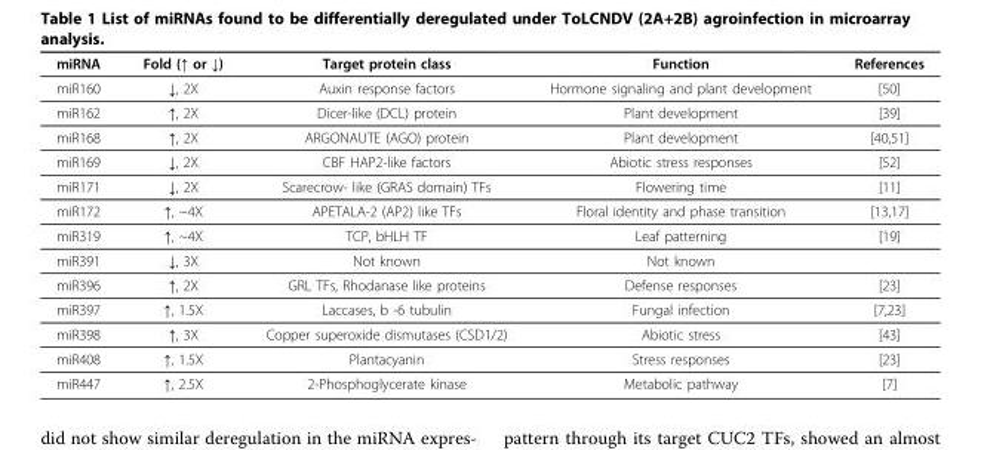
<table><thead><tr><td>miRNA</td><td>Fold (↑ or ↓)</td><td>Target protein class</td><td>Function</td><td>References</td></tr></thead><tbody><tr><td>miR160</td><td>↓, 2X</td><td>Auxin response factors</td><td>Hormone signaling and plant development</td><td>[50]</td></tr><tr><td>miR162</td><td>↑, 2X</td><td>Dicer-like (DCL) protein</td><td>Plant development</td><td>[39]</td></tr><tr><td>miR168</td><td>↑, 2X</td><td>ARGONAUTE (AGO) protein</td><td>Plant development</td><td>[40,51]</td></tr><tr><td>miR169</td><td>↓, 2X</td><td>CBF HAP2-like factors</td><td>Abiotic stress responses</td><td>[52]</td></tr><tr><td>miR171</td><td>↓, 2X</td><td>Scarecrow- like (GRAS domain) TFs</td><td>Flowering time</td><td>[11]</td></tr><tr><td>miR172</td><td>↑, ~4X</td><td>APETALA-2 (AP2) like TFs</td><td>Floral identity and phase transition</td><td>[13,17]</td></tr><tr><td>miR319</td><td>↑, ~4X</td><td>TCP, bHLH TF</td><td>Leaf patterning</td><td>[19]</td></tr><tr><td>miR391</td><td>↓, 3X</td><td>Not known</td><td>Not known</td><td></td></tr><tr><td>miR396</td><td>↑, 2X</td><td>GRL TFs, Rhodanase like proteins</td><td>Defense responses</td><td>[23]</td></tr><tr><td>miR397</td><td>↑, 1.5X</td><td>Laccases, b -6 tubulin</td><td>Fungal infection</td><td>[7,23]</td></tr><tr><td>miR398</td><td>↑, 3X</td><td>Copper superoxide dismutases (CSD1/2)</td><td>Abiotic stress</td><td>[43]</td></tr><tr><td>miR408</td><td>↑, 1.5X</td><td>Plantacyanin</td><td>Stress responses</td><td>[23]</td></tr><tr><td>miR447</td><td>↑, 2.5X</td><td>2-Phosphoglycerate kinase</td><td>Metabolic pathway</td><td>[7]</td></tr></tbody></table>